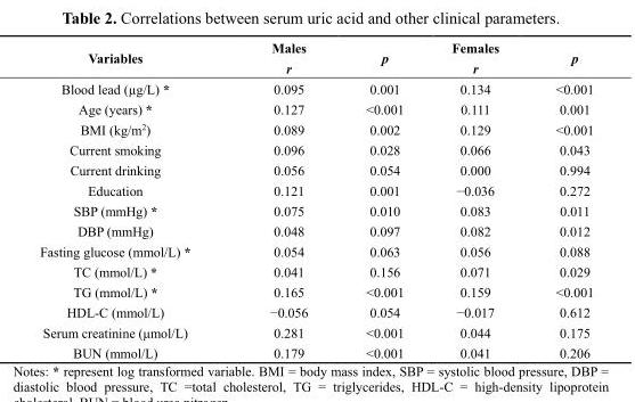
<table><thead><tr><td>Variables</td><td>Males r</td><td>p</td><td>Females r</td><td>p</td></tr></thead><tbody><tr><td>Blood lead (µg/L) *</td><td>0.095</td><td>0.001</td><td>0.134</td><td>&lt;0.001</td></tr><tr><td>Age (years) *</td><td>0.127</td><td>&lt;0.001</td><td>0.111</td><td>0.001</td></tr><tr><td>BMI (kg/m<sup>2</sup>)</td><td>0.089</td><td>0.002</td><td>0.129</td><td>&lt;0.001</td></tr><tr><td>Current smoking</td><td>0.096</td><td>0.028</td><td>0.066</td><td>0.043</td></tr><tr><td>Current drinking</td><td>0.056</td><td>0.054</td><td>0.000</td><td>0.994</td></tr><tr><td>Education</td><td>0.121</td><td>0.001</td><td>−0.036</td><td>0.272</td></tr><tr><td>SBP (mmHg) *</td><td>0.075</td><td>0.010</td><td>0.083</td><td>0.011</td></tr><tr><td>DBP (mmHg)</td><td>0.048</td><td>0.097</td><td>0.082</td><td>0.012</td></tr><tr><td>Fasting glucose (mmol/L) *</td><td>0.054</td><td>0.063</td><td>0.056</td><td>0.088</td></tr><tr><td>TC (mmol/L) *</td><td>0.041</td><td>0.156</td><td>0.071</td><td>0.029</td></tr><tr><td>TG (mmol/L) *</td><td>0.165</td><td>&lt;0.001</td><td>0.159</td><td>&lt;0.001</td></tr><tr><td>HDL-C (mmol/L)</td><td>−0.056</td><td>0.054</td><td>−0.017</td><td>0.612</td></tr><tr><td>Serum creatinine (μmol/L)</td><td>0.281</td><td>&lt;0.001</td><td>0.044</td><td>0.175</td></tr><tr><td>BUN (mmol/L)</td><td>0.179</td><td>&lt;0.001</td><td>0.041</td><td>0.206</td></tr></tbody></table>